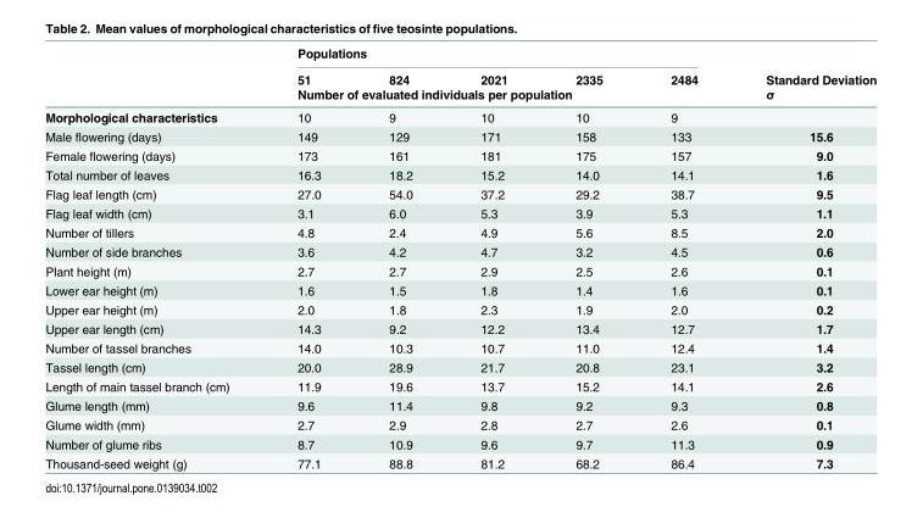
<table><thead><tr><td rowspan="3"></td><td colspan="5">Populations</td><td rowspan="3">Standard Deviation σ</td></tr><tr><td>51</td><td>824</td><td>2021</td><td>2335</td><td>2484</td></tr><tr><td colspan="5">Number of evaluated individuals per population</td></tr></thead><tbody><tr><td>Morphological characteristics</td><td>10</td><td>9</td><td>10</td><td>10</td><td>9</td><td></td></tr><tr><td>Male flowering (days)</td><td>149</td><td>129</td><td>171</td><td>158</td><td>133</td><td>15.6</td></tr><tr><td>Female flowering (days)</td><td>173</td><td>161</td><td>181</td><td>175</td><td>157</td><td>9.0</td></tr><tr><td>Total number of leaves</td><td>16.3</td><td>18.2</td><td>15.2</td><td>14.0</td><td>14.1</td><td>1.6</td></tr><tr><td>Flag leaf length (cm)</td><td>27.0</td><td>54.0</td><td>37.2</td><td>29.2</td><td>38.7</td><td>9.5</td></tr><tr><td>Flag leaf width (cm)</td><td>3.1</td><td>6.0</td><td>5.3</td><td>3.9</td><td>5.3</td><td>1.1</td></tr><tr><td>Number of tillers</td><td>4.8</td><td>2.4</td><td>4.9</td><td>5.6</td><td>8.5</td><td>2.0</td></tr><tr><td>Number of side branches</td><td>3.6</td><td>4.2</td><td>4.7</td><td>3.2</td><td>4.5</td><td>0.6</td></tr><tr><td>Plant height (m)</td><td>2.7</td><td>2.7</td><td>2.9</td><td>2.5</td><td>2.6</td><td>0.1</td></tr><tr><td>Lower ear height (m)</td><td>1.6</td><td>1.5</td><td>1.8</td><td>1.4</td><td>1.6</td><td>0.1</td></tr><tr><td>Upper ear height (m)</td><td>2.0</td><td>1.8</td><td>2.3</td><td>1.9</td><td>2.0</td><td>0.2</td></tr><tr><td>Upper ear length (cm)</td><td>14.3</td><td>9.2</td><td>12.2</td><td>13.4</td><td>12.7</td><td>1.7</td></tr><tr><td>Number of tassel branches</td><td>14.0</td><td>10.3</td><td>10.7</td><td>11.0</td><td>12.4</td><td>1.4</td></tr><tr><td>Tassel length (cm)</td><td>20.0</td><td>28.9</td><td>21.7</td><td>20.8</td><td>23.1</td><td>3.2</td></tr><tr><td>Length of main tassel branch (cm)</td><td>11.9</td><td>19.6</td><td>13.7</td><td>15.2</td><td>14.1</td><td>2.6</td></tr><tr><td>Glume length (mm)</td><td>9.6</td><td>11.4</td><td>9.8</td><td>9.2</td><td>9.3</td><td>0.8</td></tr><tr><td>Glume width (mm)</td><td>2.7</td><td>2.9</td><td>2.8</td><td>2.7</td><td>2.6</td><td>0.1</td></tr><tr><td>Number of glume ribs</td><td>8.7</td><td>10.9</td><td>9.6</td><td>9.7</td><td>11.3</td><td>0.9</td></tr><tr><td>Thousand-seed weight (g)</td><td>77.1</td><td>88.8</td><td>81.2</td><td>68.2</td><td>86.4</td><td>7.3</td></tr></tbody></table>